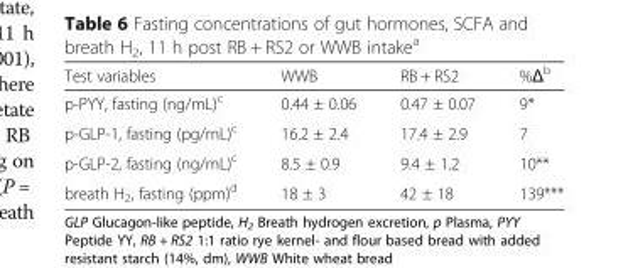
<table><thead><tr><td>Test variables</td><td>WWB</td><td>RB + RS2</td><td>%Δ<sup>b</sup></td></tr></thead><tbody><tr><td>p-PYY, fasting (ng/mL)<sup>c</sup></td><td>0.44 ± 0.06</td><td>0.47 ± 0.07</td><td>9*</td></tr><tr><td>p-GLP-1, fasting (pg/mL)<sup>c</sup></td><td>16.2 ± 2.4</td><td>17.4 ± 2.9</td><td>7</td></tr><tr><td>p-GLP-2, fasting (ng/mL)<sup>c</sup></td><td>8.5 ± 0.9</td><td>9.4 ± 1.2</td><td>10**</td></tr><tr><td>breath H<sub>2</sub>, fasting (ppm)<sup>d</sup></td><td>18 ± 3</td><td>42 ± 18</td><td>139***</td></tr></tbody></table>